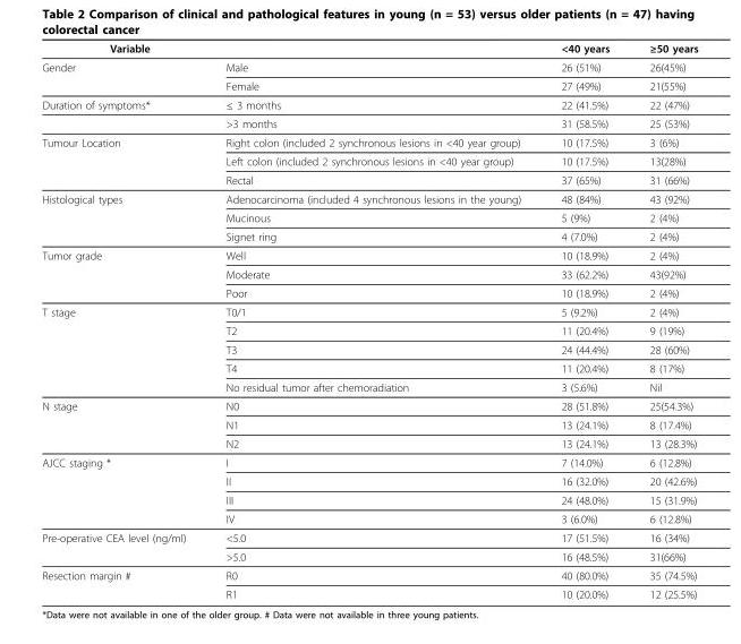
<table><thead><tr><td>Variable</td><td></td><td>&lt;40 years</td><td>≥50 years</td></tr></thead><tbody><tr><td rowspan="2">Gender</td><td>Male</td><td>26 (51%)</td><td>26(45%)</td></tr><tr><td>Female</td><td>27 (49%)</td><td>21(55%)</td></tr><tr><td rowspan="2">Duration of symptoms*</td><td>≤ 3 months</td><td>22 (41.5%)</td><td>22 (47%)</td></tr><tr><td>&gt;3 months</td><td>31 (58.5%)</td><td>25 (53%)</td></tr><tr><td rowspan="3">Tumour Location</td><td>Right colon (included 2 synchronous lesions in &lt;40 year group)</td><td>10 (17.5%)</td><td>3 (6%)</td></tr><tr><td>Left colon (included 2 synchronous lesions in &lt;40 year group)</td><td>10 (17.5%)</td><td>13(28%)</td></tr><tr><td>Rectal</td><td>37 (65%)</td><td>31 (66%)</td></tr><tr><td rowspan="3">Histological types</td><td>Adenocarcinoma (included 4 synchronous lesions in the young)</td><td>48 (84%)</td><td>43 (92%)</td></tr><tr><td>Mucinous</td><td>5 (9%)</td><td>2 (4%)</td></tr><tr><td>Signet ring</td><td>4 (7.0%)</td><td>2 (4%)</td></tr><tr><td rowspan="3">Tumor grade</td><td>Well</td><td>10 (18.9%)</td><td>2 (4%)</td></tr><tr><td>Moderate</td><td>33 (62.2%)</td><td>43(92%)</td></tr><tr><td>Poor</td><td>10 (18.9%)</td><td>2 (4%)</td></tr><tr><td rowspan="5">T stage</td><td>T0/1</td><td>5 (9.2%)</td><td>2 (4%)</td></tr><tr><td>T2</td><td>11 (20.4%)</td><td>9 (19%)</td></tr><tr><td>T3</td><td>24 (44.4%)</td><td>28 (60%)</td></tr><tr><td>T4</td><td>11 (20.4%)</td><td>8 (17%)</td></tr><tr><td>No residual tumor after chemoradiation</td><td>3 (5.6%)</td><td>Nil</td></tr><tr><td rowspan="3">N stage</td><td>N0</td><td>28 (51.8%)</td><td>25(54.3%)</td></tr><tr><td>N1</td><td>13 (24.1%)</td><td>8 (17.4%)</td></tr><tr><td>N2</td><td>13 (24.1%)</td><td>13 (28.3%)</td></tr><tr><td rowspan="4">AJCC staging *</td><td>I</td><td>7 (14.0%)</td><td>6 (12.8%)</td></tr><tr><td>II</td><td>16 (32.0%)</td><td>20 (42.6%)</td></tr><tr><td>III</td><td>24 (48.0%)</td><td>15 (31.9%)</td></tr><tr><td>IV</td><td>3 (6.0%)</td><td>6 (12.8%)</td></tr><tr><td rowspan="2">Pre-operative CEA level (ng/ml)</td><td>&lt;5.0</td><td>17 (51.5%)</td><td>16 (34%)</td></tr><tr><td>&gt;5.0</td><td>16 (48.5%)</td><td>31(66%)</td></tr><tr><td rowspan="2">Resection margin #</td><td>R0</td><td>40 (80.0%)</td><td>35 (74.5%)</td></tr><tr><td>R1</td><td>10 (20.0%)</td><td>12 (25.5%)</td></tr></tbody></table>